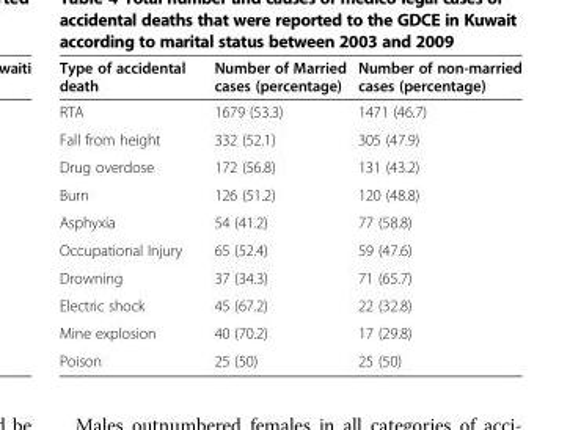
<table><thead><tr><td>Type of accidental death</td><td>Number of Married cases (percentage)</td><td>Number of non-married cases (percentage)</td></tr></thead><tbody><tr><td>RTA</td><td>1679 (53.3)</td><td>1471 (46.7)</td></tr><tr><td>Fall from height</td><td>332 (52.1)</td><td>305 (47.9)</td></tr><tr><td>Drug overdose</td><td>172 (56.8)</td><td>131 (43.2)</td></tr><tr><td>Burn</td><td>126 (51.2)</td><td>120 (48.8)</td></tr><tr><td>Asphyxia</td><td>54 (41.2)</td><td>77 (58.8)</td></tr><tr><td>Occupational Injury</td><td>65 (52.4)</td><td>59 (47.6)</td></tr><tr><td>Drowning</td><td>37 (34.3)</td><td>71 (65.7)</td></tr><tr><td>Electric shock</td><td>45 (67.2)</td><td>22 (32.8)</td></tr><tr><td>Mine explosion</td><td>40 (70.2)</td><td>17 (29.8)</td></tr><tr><td>Poison</td><td>25 (50)</td><td>25 (50)</td></tr></tbody></table>